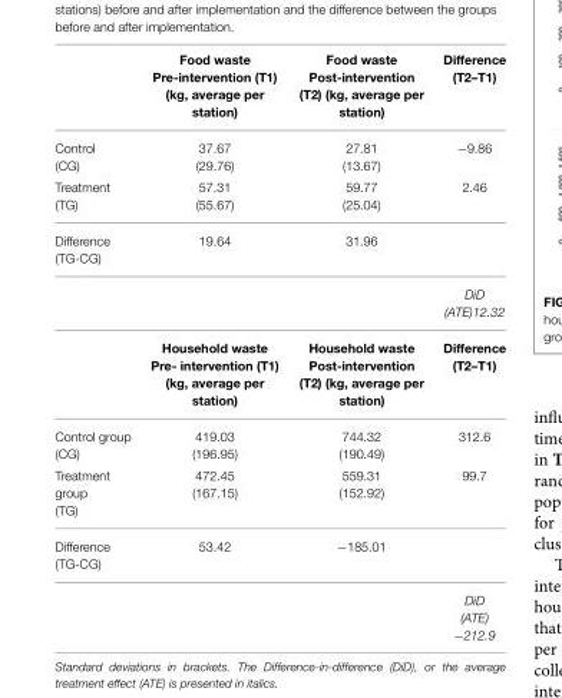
<table><thead><tr><td></td><td>Food waste Pre-intervention (T1) (kg, average per station)</td><td>Food waste Post-intervention (T2) (kg, average per station)</td><td>Difference (T2–T1)</td></tr></thead><tbody><tr><td>Control (CG)</td><td>37.67 (29.76)</td><td>27.81 (13.67)</td><td>−9.86</td></tr><tr><td>Treatment (TG)</td><td>57.31 (55.67)</td><td>59.77 (25.04)</td><td>2.46</td></tr><tr><td rowspan="3">Difference (TG-CG)</td><td>19.64</td><td>31.96</td><td></td></tr><tr><td></td><td></td><td>DiD (ATE)12.32</td></tr><tr><td>Household waste Pre- intervention (T1) (kg, average per station)</td><td>Household waste Post-intervention (T2) (kg, average per station)</td><td>Difference (T2–T1)</td></tr><tr><td>Control group (CG)</td><td>419.03 (196.95)</td><td>744.32 (190.49)</td><td>312.6</td></tr><tr><td>Treatment group (TG)</td><td>472.45 (167.15)</td><td>559.31 (152.92)</td><td>99.7</td></tr><tr><td rowspan="2">Difference (TG-CG)</td><td>53.42</td><td>−185.01</td><td></td></tr><tr><td></td><td></td><td>DiD (ATE) −212.9</td></tr></tbody></table>